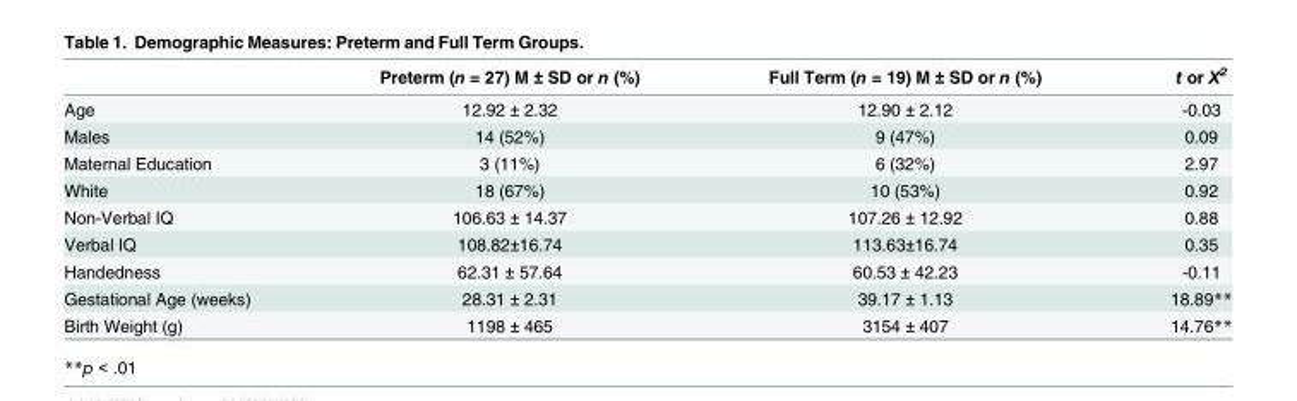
<table><thead><tr><td></td><td>Preterm (n = 27) M ± SD or n (%)</td><td>Full Term (n = 19) M ± SD or n (%)</td><td>t or X<sup>2</sup></td></tr></thead><tbody><tr><td>Age</td><td>12.92 ± 2.32</td><td>12.90 ± 2.12</td><td>-0.03</td></tr><tr><td>Males</td><td>14 (52%)</td><td>9 (47%)</td><td>0.09</td></tr><tr><td>Maternal Education</td><td>3 (11%)</td><td>6 (32%)</td><td>2.97</td></tr><tr><td>White</td><td>18 (67%)</td><td>10 (53%)</td><td>0.92</td></tr><tr><td>Non-Verbal IQ</td><td>106.63 ± 14.37</td><td>107.26 ± 12.92</td><td>0.88</td></tr><tr><td>Verbal IQ</td><td>108.82±16.74</td><td>113.63±16.74</td><td>0.35</td></tr><tr><td>Handedness</td><td>62.31 ± 57.64</td><td>60.53 ± 42.23</td><td>-0.11</td></tr><tr><td>Gestational Age (weeks)</td><td>28.31 ± 2.31</td><td>39.17 ± 1.13</td><td>18.89**</td></tr><tr><td>Birth Weight (g)</td><td>1198 ± 465</td><td>3154 ± 407</td><td>14.76**</td></tr></tbody></table>